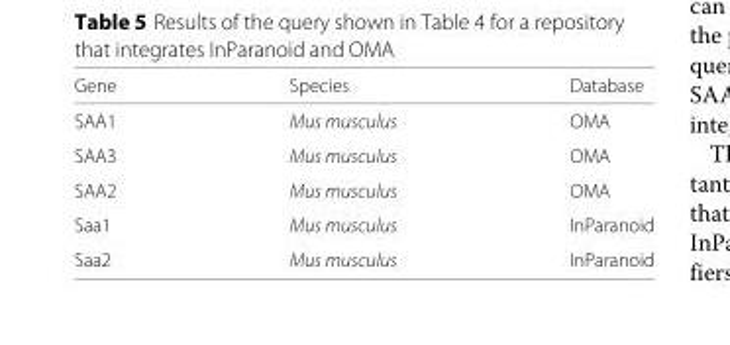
<table><thead><tr><td>Gene</td><td>Species</td><td>Database</td></tr></thead><tbody><tr><td>SAA1</td><td>Mus musculus</td><td>OMA</td></tr><tr><td>SAA3</td><td>Mus musculus</td><td>OMA</td></tr><tr><td>SAA2</td><td>Mus musculus</td><td>OMA</td></tr><tr><td>Saa1</td><td>Mus musculus</td><td>InParanoid</td></tr><tr><td>Saa2</td><td>Mus musculus</td><td>InParanoid</td></tr></tbody></table>